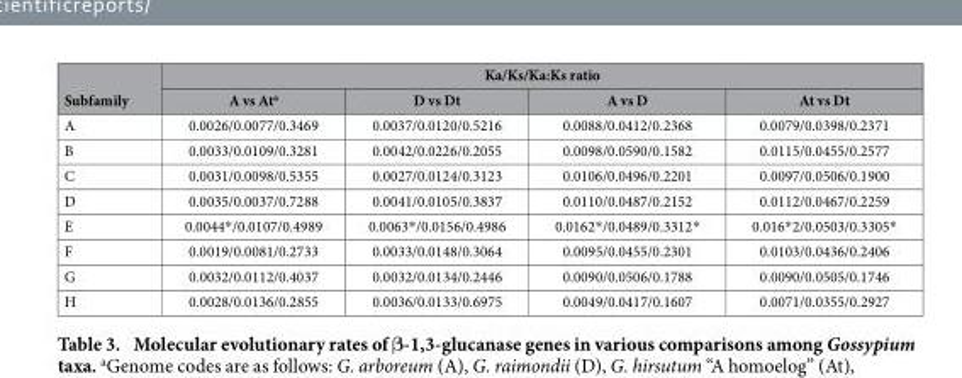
<table><thead><tr><td rowspan="2">Subfamily</td><td colspan="4">Ka/Ks/Ka:Ks ratio</td></tr><tr><td>A vs At<sup>a</sup></td><td>D vs Dt</td><td>A vs D</td><td>At vs Dt</td></tr></thead><tbody><tr><td>A</td><td>0.0026/0.0077/0.3469</td><td>0.0037/0.0120/0.5216</td><td>0.0088/0.0412/0.2368</td><td>0.0079/0.0398/0.2371</td></tr><tr><td>B</td><td>0.0033/0.0109/0.3281</td><td>0.0042/0.0226/0.2055</td><td>0.0098/0.0590/0.1582</td><td>0.0115/0.0455/0.2577</td></tr><tr><td>C</td><td>0.0031/0.0098/0.5355</td><td>0.0027/0.0124/0.3123</td><td>0.0106/0.0496/0.2201</td><td>0.0097/0.0506/0.1900</td></tr><tr><td>D</td><td>0.0035/0.0037/0.7288</td><td>0.0041/0.0105/0.3837</td><td>0.0110/0.0487/0.2152</td><td>0.0112/0.0467/0.2259</td></tr><tr><td>E</td><td>0.0044* /0.0107/0.4989</td><td>0.0063* /0.0156/0.4986</td><td>0.0162* /0.0489/0.3312*</td><td>0.016* 2/0.0503/0.3305*</td></tr><tr><td>F</td><td>0.0019/0.0081/0.2733</td><td>0.0033/0.0148/0.3064</td><td>0.0095/0.0455/0.2301</td><td>0.0103/0.0436/0.2406</td></tr><tr><td>G</td><td>0.0032/0.0112/0.4037</td><td>0.0032/0.0134/0.2446</td><td>0.0090/0.0506/0.1788</td><td>0.0090/0.0505/0.1746</td></tr><tr><td>H</td><td>0.0028/0.0136/0.2855</td><td>0.0036/0.0133/0.6975</td><td>0.0049/0.0417/0.1607</td><td>0.0071/0.0355/0.2927</td></tr></tbody></table>